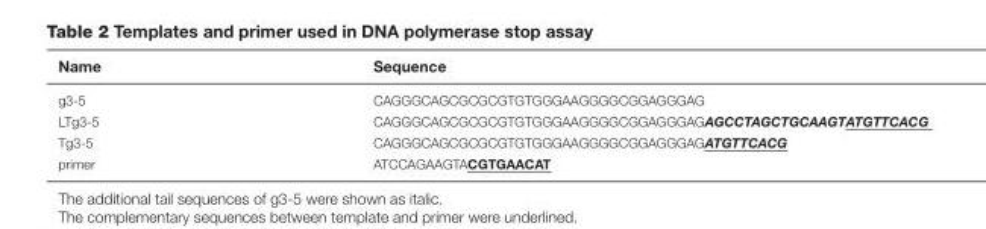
<table><thead><tr><td>Name</td><td>Sequence</td></tr></thead><tbody><tr><td>g3-5</td><td>CAGGGCAGCGCGCGTGTGGGAAGGGGCGGAGGGAG</td></tr><tr><td>LTg3-5</td><td>CAGGGCAGCGCGCGTGTGGGAAGGGGCGGAGGGAGAGCCTAGCTGCAAGTATGTTCACG</td></tr><tr><td>Tg3-5</td><td>CAGGGCAGCGCGCGTGTGGGAAGGGGCGGAGGGAGATGTTCACG</td></tr><tr><td>primer</td><td>ATCCAGAAGTACGTGAACAT</td></tr></tbody></table>